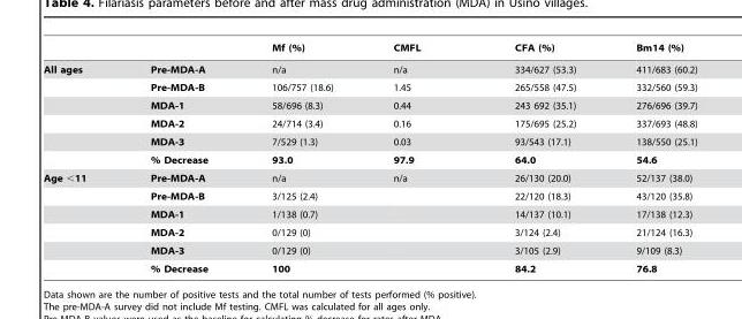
<table><thead><tr><td></td><td></td><td>Mf (%)</td><td>CMFL</td><td>CFA (%)</td><td>Bm14 (%)</td></tr></thead><tbody><tr><td rowspan="6">All ages</td><td>Pre-MDA-A</td><td>n/a</td><td>n/a</td><td>334/627 (53.3)</td><td>411/683 (60.2)</td></tr><tr><td>Pre-MDA-B</td><td>106/757 (18.6)</td><td>1.45</td><td>265/558 (47.5)</td><td>332/560 (59.3)</td></tr><tr><td>MDA-1</td><td>58/696 (8.3)</td><td>0.44</td><td>243 692 (35.1)</td><td>276/696 (39.7)</td></tr><tr><td>MDA-2</td><td>24/714 (3.4)</td><td>0.16</td><td>175/695 (25.2)</td><td>337/693 (48.8)</td></tr><tr><td>MDA-3</td><td>7/529 (1.3)</td><td>0.03</td><td>93/543 (17.1)</td><td>138/550 (25.1)</td></tr><tr><td>% Decrease</td><td>93.0</td><td>97.9</td><td>64.0</td><td>54.6</td></tr><tr><td rowspan="6">Age &lt;11</td><td>Pre-MDA-A</td><td>n/a</td><td>n/a</td><td>26/130 (20.0)</td><td>52/137 (38.0)</td></tr><tr><td>Pre-MDA-B</td><td>3/125 (2.4)</td><td></td><td>22/120 (18.3)</td><td>43/120 (35.8)</td></tr><tr><td>MDA-1</td><td>1/138 (0.7)</td><td></td><td>14/137 (10.1)</td><td>17/138 (12.3)</td></tr><tr><td>MDA-2</td><td>0/129 (0)</td><td></td><td>3/124 (2.4)</td><td>21/124 (16.3)</td></tr><tr><td>MDA-3</td><td>0/129 (0)</td><td></td><td>3/105 (2.9)</td><td>9/109 (8.3)</td></tr><tr><td>% Decrease</td><td>100</td><td></td><td>84.2</td><td>76.8</td></tr></tbody></table>